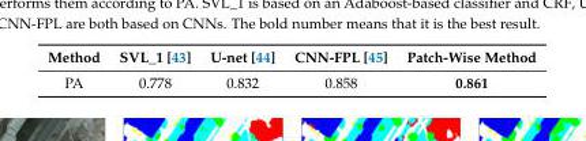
<table><thead><tr><td>Method</td><td>SVL_1 [43]</td><td>U-net [44]</td><td>CNN-FPL [45]</td><td>Patch-Wise Method</td></tr></thead><tbody><tr><td>PA</td><td>0.778</td><td>0.832</td><td>0.858</td><td>0.861</td></tr></tbody></table>